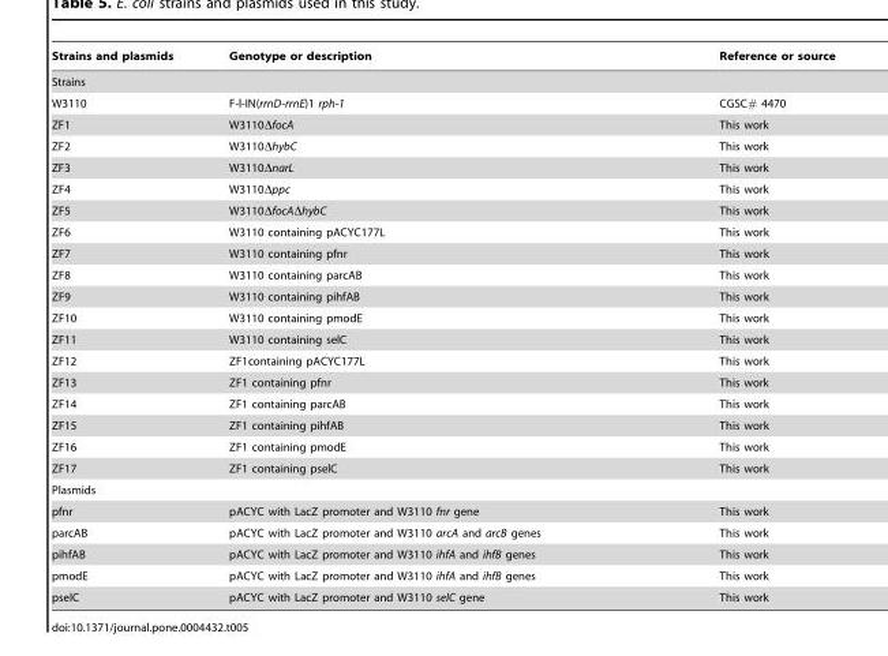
<table><thead><tr><td>Strains and plasmids</td><td>Genotype or description</td><td>Reference or source</td></tr></thead><tbody><tr><td colspan="3">Strains</td></tr><tr><td>W3110</td><td>F-l-IN(rrnD-rrnE)1 rph-1</td><td>CGSC# 4470</td></tr><tr><td>ZF1</td><td>W3110ΔfocA</td><td>This work</td></tr><tr><td>ZF2</td><td>W3110ΔhybC</td><td>This work</td></tr><tr><td>ZF3</td><td>W3110ΔnarL</td><td>This work</td></tr><tr><td>ZF4</td><td>W3110Δppc</td><td>This work</td></tr><tr><td>ZF5</td><td>W3110ΔfocAΔhybC</td><td>This work</td></tr><tr><td>ZF6</td><td>W3110 containing pACYC177L</td><td>This work</td></tr><tr><td>ZF7</td><td>W3110 containing pfnr</td><td>This work</td></tr><tr><td>ZF8</td><td>W3110 containing parcAB</td><td>This work</td></tr><tr><td>ZF9</td><td>W3110 containing pihfAB</td><td>This work</td></tr><tr><td>ZF10</td><td>W3110 containing pmodE</td><td>This work</td></tr><tr><td>ZF11</td><td>W3110 containing selC</td><td>This work</td></tr><tr><td>ZF12</td><td>ZF1containing pACYC177L</td><td>This work</td></tr><tr><td>ZF13</td><td>ZF1 containing pfnr</td><td>This work</td></tr><tr><td>ZF14</td><td>ZF1 containing parcAB</td><td>This work</td></tr><tr><td>ZF15</td><td>ZF1 containing pihfAB</td><td>This work</td></tr><tr><td>ZF16</td><td>ZF1 containing pmodE</td><td>This work</td></tr><tr><td>ZF17</td><td>ZF1 containing pselC</td><td>This work</td></tr><tr><td colspan="3">Plasmids</td></tr><tr><td>pfnr</td><td>pACYC with LacZ promoter and W3110 fnr gene</td><td>This work</td></tr><tr><td>parcAB</td><td>pACYC with LacZ promoter and W3110 arcA and arcB genes</td><td>This work</td></tr><tr><td>pihfAB</td><td>pACYC with LacZ promoter and W3110 ihfA and ihfB genes</td><td>This work</td></tr><tr><td>pmodE</td><td>pACYC with LacZ promoter and W3110 ihfA and ihfB genes</td><td>This work</td></tr><tr><td>pselC</td><td>pACYC with LacZ promoter and W3110 selC gene</td><td>This work</td></tr></tbody></table>